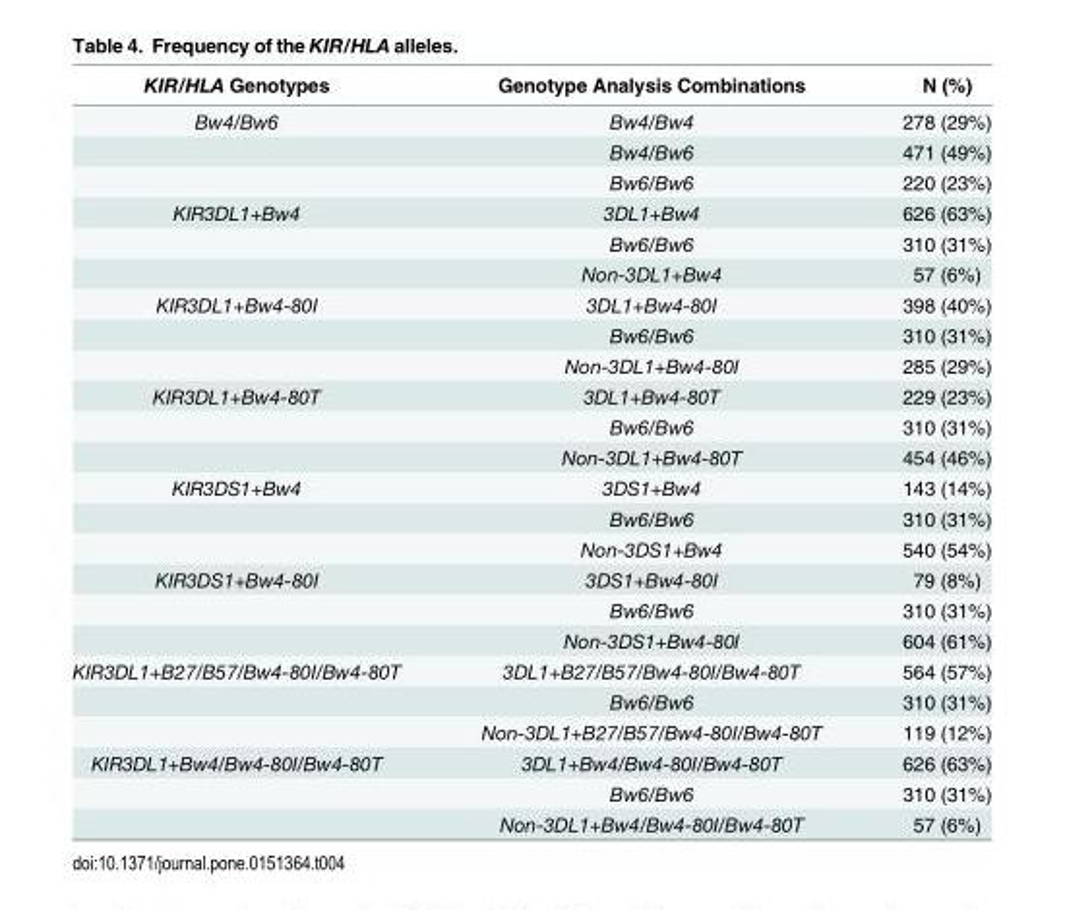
<table><thead><tr><td>KIR/HLA Genotypes</td><td>Genotype Analysis Combinations</td><td>N (%)</td></tr></thead><tbody><tr><td rowspan="3">Bw4/Bw6</td><td>Bw4/Bw4</td><td>278 (29%)</td></tr><tr><td>Bw4/Bw6</td><td>471 (49%)</td></tr><tr><td>Bw6/Bw6</td><td>220 (23%)</td></tr><tr><td rowspan="3">KIR3DL1+Bw4</td><td>3DL1+Bw4</td><td>626 (63%)</td></tr><tr><td>Bw6/Bw6</td><td>310 (31%)</td></tr><tr><td>Non-3DL1+Bw4</td><td>57 (6%)</td></tr><tr><td rowspan="3">KIR3DL1+Bw4-80I</td><td>3DL1+Bw4-80I</td><td>398 (40%)</td></tr><tr><td>Bw6/Bw6</td><td>310 (31%)</td></tr><tr><td>Non-3DL1+Bw4-80I</td><td>285 (29%)</td></tr><tr><td rowspan="3">KIR3DL1+Bw4-80T</td><td>3DL1+Bw4-80T</td><td>229 (23%)</td></tr><tr><td>Bw6/Bw6</td><td>310 (31%)</td></tr><tr><td>Non-3DL1+Bw4-80T</td><td>454 (46%)</td></tr><tr><td rowspan="3">KIR3DS1+Bw4</td><td>3DS1+Bw4</td><td>143 (14%)</td></tr><tr><td>Bw6/Bw6</td><td>310 (31%)</td></tr><tr><td>Non-3DS1+Bw4</td><td>540 (54%)</td></tr><tr><td rowspan="3">KIR3DS1+Bw4-80I</td><td>3DS1+Bw4-80I</td><td>79 (8%)</td></tr><tr><td>Bw6/Bw6</td><td>310 (31%)</td></tr><tr><td>Non-3DS1+Bw4-80I</td><td>604 (61%)</td></tr><tr><td rowspan="3">KIR3DL1+B27/B57/Bw4-80I/Bw4-80T</td><td>3DL1+B27/B57/Bw4-80I/Bw4-80T</td><td>564 (57%)</td></tr><tr><td>Bw6/Bw6</td><td>310 (31%)</td></tr><tr><td>Non-3DL1+B27/B57/Bw4-80I/Bw4-80T</td><td>119 (12%)</td></tr><tr><td rowspan="3">KIR3DL1+Bw4/Bw4-80I/Bw4-80T</td><td>3DL1+Bw4/Bw4-80I/Bw4-80T</td><td>626 (63%)</td></tr><tr><td>Bw6/Bw6</td><td>310 (31%)</td></tr><tr><td>Non-3DL1+Bw4/Bw4-80I/Bw4-80T</td><td>57 (6%)</td></tr></tbody></table>